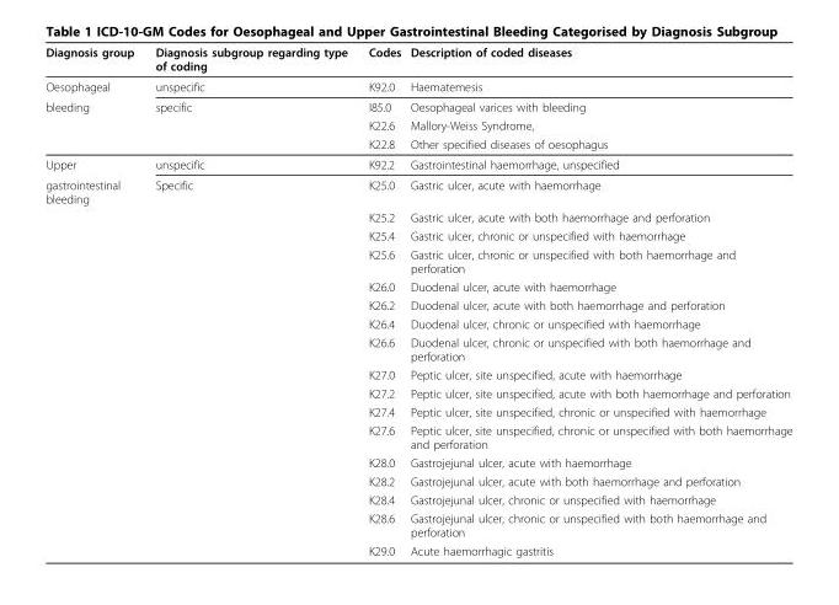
<table><thead><tr><td>Diagnosis group</td><td>Diagnosis subgroup regarding type of coding</td><td>Codes</td><td>Description of coded diseases</td></tr></thead><tbody><tr><td>Oesophageal</td><td>unspecific</td><td>K92.0</td><td>Haematemesis</td></tr><tr><td rowspan="3">bleeding</td><td>specific</td><td>I85.0</td><td>Oesophageal varices with bleeding</td></tr><tr><td></td><td>K22.6</td><td>Mallory-Weiss Syndrome,</td></tr><tr><td></td><td>K22.8</td><td>Other specified diseases of oesophagus</td></tr><tr><td>Upper</td><td>unspecific</td><td>K92.2</td><td>Gastrointestinal haemorrhage, unspecified</td></tr><tr><td rowspan="17">gastrointestinal bleeding</td><td>Specific</td><td>K25.0</td><td>Gastric ulcer, acute with haemorrhage</td></tr><tr><td></td><td>K25.2</td><td>Gastric ulcer, acute with both haemorrhage and perforation</td></tr><tr><td></td><td>K25.4</td><td>Gastric ulcer, chronic or unspecified with haemorrhage</td></tr><tr><td></td><td>K25.6</td><td>Gastric ulcer, chronic or unspecified with both haemorrhage and perforation</td></tr><tr><td></td><td>K26.0</td><td>Duodenal ulcer, acute with haemorrhage</td></tr><tr><td></td><td>K26.2</td><td>Duodenal ulcer, acute with both haemorrhage and perforation</td></tr><tr><td></td><td>K26.4</td><td>Duodenal ulcer, chronic or unspecified with haemorrhage</td></tr><tr><td></td><td>K26.6</td><td>Duodenal ulcer, chronic or unspecified with both haemorrhage and perforation</td></tr><tr><td></td><td>K27.0</td><td>Peptic ulcer, site unspecified, acute with haemorrhage</td></tr><tr><td></td><td>K27.2</td><td>Peptic ulcer, site unspecified, acute with both haemorrhage and perforation</td></tr><tr><td></td><td>K27.4</td><td>Peptic ulcer, site unspecified, chronic or unspecified with haemorrhage</td></tr><tr><td></td><td>K27.6</td><td>Peptic ulcer, site unspecified, chronic or unspecified with both haemorrhage and perforation</td></tr><tr><td></td><td>K28.0</td><td>Gastrojejunal ulcer, acute with haemorrhage</td></tr><tr><td></td><td>K28.2</td><td>Gastrojejunal ulcer, acute with both haemorrhage and perforation</td></tr><tr><td></td><td>K28.4</td><td>Gastrojejunal ulcer, chronic or unspecified with haemorrhage</td></tr><tr><td></td><td>K28.6</td><td>Gastrojejunal ulcer, chronic or unspecified with both haemorrhage and perforation</td></tr><tr><td></td><td>K29.0</td><td>Acute haemorrhagic gastritis</td></tr></tbody></table>